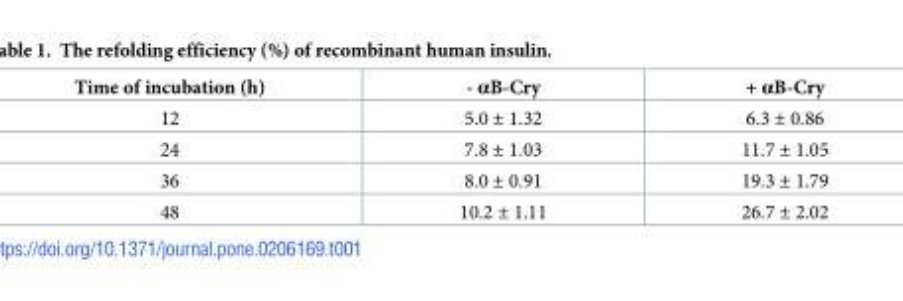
<table><thead><tr><td>Time of incubation (h)</td><td>- αB-Cry</td><td>+ αB-Cry</td></tr></thead><tbody><tr><td>12</td><td>5.0 ± 1.32</td><td>6.3 ± 0.86</td></tr><tr><td>24</td><td>7.8 ± 1.03</td><td>11.7 ± 1.05</td></tr><tr><td>36</td><td>8.0 ± 0.91</td><td>19.3 ± 1.79</td></tr><tr><td>48</td><td>10.2 ± 1.11</td><td>26.7 ± 2.02</td></tr></tbody></table>